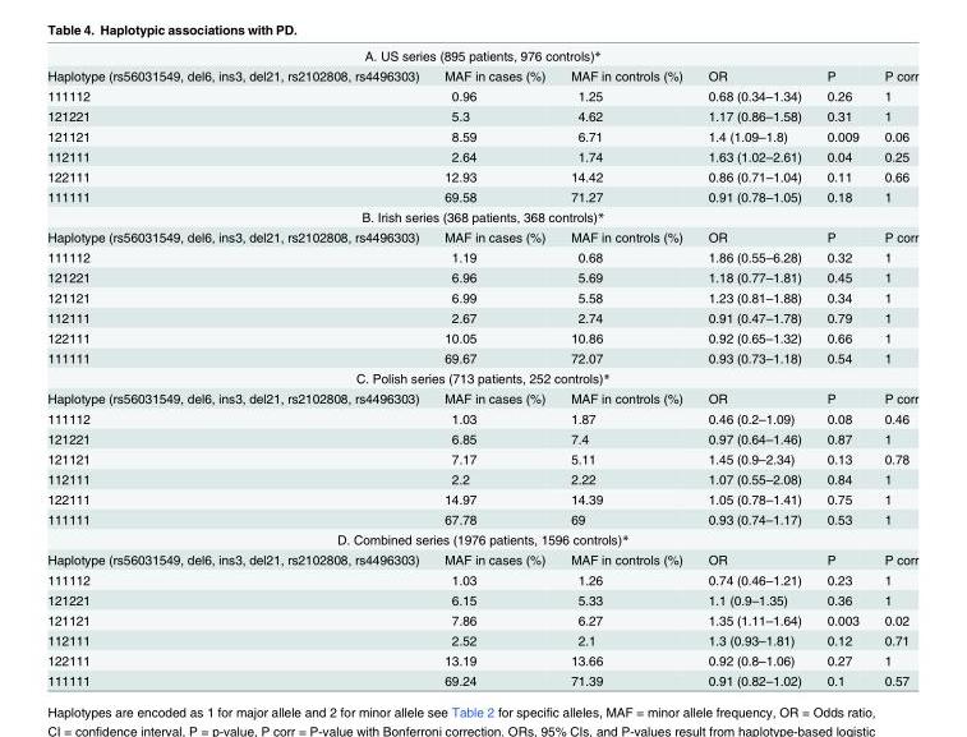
<table><tbody><tr><td colspan="6">A. US series (895 patients, 976 controls)*</td></tr><tr><td>Haplotype (rs56031549, del6, ins3, del21, rs2102808, rs4496303)</td><td>MAF in cases (%)</td><td>MAF in controls (%)</td><td>OR</td><td>P</td><td>P corr</td></tr><tr><td>111112</td><td>0.96</td><td>1.25</td><td>0.68 (0.34–1.34)</td><td>0.26</td><td>1</td></tr><tr><td>121221</td><td>5.3</td><td>4.62</td><td>1.17 (0.86–1.58)</td><td>0.31</td><td>1</td></tr><tr><td>121121</td><td>8.59</td><td>6.71</td><td>1.4 (1.09–1.8)</td><td>0.009</td><td>0.06</td></tr><tr><td>112111</td><td>2.64</td><td>1.74</td><td>1.63 (1.02–2.61)</td><td>0.04</td><td>0.25</td></tr><tr><td>122111</td><td>12.93</td><td>14.42</td><td>0.86 (0.71–1.04)</td><td>0.11</td><td>0.66</td></tr><tr><td>111111</td><td>69.58</td><td>71.27</td><td>0.91 (0.78–1.05)</td><td>0.18</td><td>1</td></tr><tr><td colspan="6">B. Irish series (368 patients, 368 controls)*</td></tr><tr><td>Haplotype (rs56031549, del6, ins3, del21, rs2102808, rs4496303)</td><td>MAF in cases (%)</td><td>MAF in controls (%)</td><td>OR</td><td>P</td><td>P corr</td></tr><tr><td>111112</td><td>1.19</td><td>0.68</td><td>1.86 (0.55–6.28)</td><td>0.32</td><td>1</td></tr><tr><td>121221</td><td>6.96</td><td>5.69</td><td>1.18 (0.77–1.81)</td><td>0.45</td><td>1</td></tr><tr><td>121121</td><td>6.99</td><td>5.58</td><td>1.23 (0.81–1.88)</td><td>0.34</td><td>1</td></tr><tr><td>112111</td><td>2.67</td><td>2.74</td><td>0.91 (0.47–1.78)</td><td>0.79</td><td>1</td></tr><tr><td>122111</td><td>10.05</td><td>10.86</td><td>0.92 (0.65–1.32)</td><td>0.66</td><td>1</td></tr><tr><td>111111</td><td>69.67</td><td>72.07</td><td>0.93 (0.73–1.18)</td><td>0.54</td><td>1</td></tr><tr><td colspan="6">C. Polish series (713 patients, 252 controls)*</td></tr><tr><td>Haplotype (rs56031549, del6, ins3, del21, rs2102808, rs4496303)</td><td>MAF in cases (%)</td><td>MAF in controls (%)</td><td>OR</td><td>P</td><td>P corr</td></tr><tr><td>111112</td><td>1.03</td><td>1.87</td><td>0.46 (0.2–1.09)</td><td>0.08</td><td>0.46</td></tr><tr><td>121221</td><td>6.85</td><td>7.4</td><td>0.97 (0.64–1.46)</td><td>0.87</td><td>1</td></tr><tr><td>121121</td><td>7.17</td><td>5.11</td><td>1.45 (0.9–2.34)</td><td>0.13</td><td>0.78</td></tr><tr><td>112111</td><td>2.2</td><td>2.22</td><td>1.07 (0.55–2.08)</td><td>0.84</td><td>1</td></tr><tr><td>122111</td><td>14.97</td><td>14.39</td><td>1.05 (0.78–1.41)</td><td>0.75</td><td>1</td></tr><tr><td>111111</td><td>67.78</td><td>69</td><td>0.93 (0.74–1.17)</td><td>0.53</td><td>1</td></tr><tr><td colspan="6">D. Combined series (1976 patients, 1596 controls)*</td></tr><tr><td>Haplotype (rs56031549, del6, ins3, del21, rs2102808, rs4496303)</td><td>MAF in cases (%)</td><td>MAF in controls (%)</td><td>OR</td><td>P</td><td>P corr</td></tr><tr><td>111112</td><td>1.03</td><td>1.26</td><td>0.74 (0.46–1.21)</td><td>0.23</td><td>1</td></tr><tr><td>121221</td><td>6.15</td><td>5.33</td><td>1.1 (0.9–1.35)</td><td>0.36</td><td>1</td></tr><tr><td>121121</td><td>7.86</td><td>6.27</td><td>1.35 (1.11–1.64)</td><td>0.003</td><td>0.02</td></tr><tr><td>112111</td><td>2.52</td><td>2.1</td><td>1.3 (0.93–1.81)</td><td>0.12</td><td>0.71</td></tr><tr><td>122111</td><td>13.19</td><td>13.66</td><td>0.92 (0.8–1.06)</td><td>0.27</td><td>1</td></tr><tr><td>111111</td><td>69.24</td><td>71.39</td><td>0.91 (0.82–1.02)</td><td>0.1</td><td>0.57</td></tr></tbody></table>